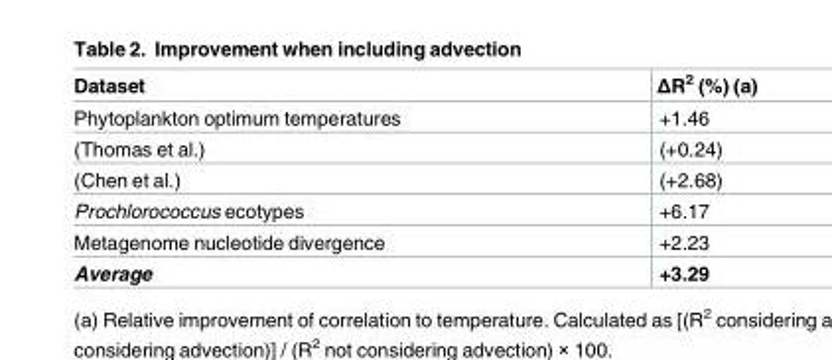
<table><thead><tr><td>Dataset</td><td>ΔR<sup>2</sup> (%) (a)</td></tr></thead><tbody><tr><td>Phytoplankton optimum temperatures</td><td>+1.46</td></tr><tr><td>(Thomas et al.)</td><td>(+0.24)</td></tr><tr><td>(Chen et al.)</td><td>(+2.68)</td></tr><tr><td>Prochlorococcus ecotypes</td><td>+6.17</td></tr><tr><td>Metagenome nucleotide divergence</td><td>+2.23</td></tr><tr><td>Average</td><td>+3.29</td></tr></tbody></table>